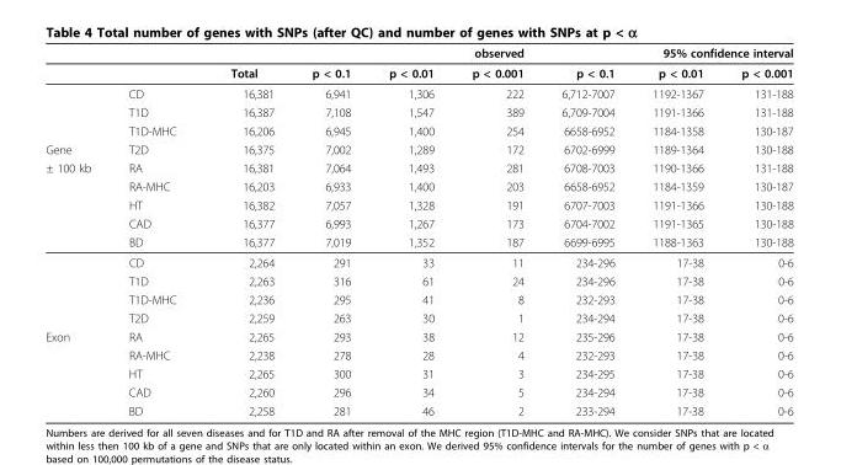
<table><thead><tr><td rowspan="2"></td><td rowspan="2"></td><td rowspan="2">Total</td><td colspan="3">observed</td><td colspan="3">95% confidence interval</td></tr><tr><td>p &lt; 0.1</td><td>p &lt; 0.01</td><td>p &lt; 0.001</td><td>p &lt; 0.1</td><td>p &lt; 0.01</td><td>p &lt; 0.001</td></tr></thead><tbody><tr><td></td><td>CD</td><td>16,381</td><td>6,941</td><td>1,306</td><td>222</td><td>6,712-7007</td><td>1192-1367</td><td>131-188</td></tr><tr><td></td><td>T1D</td><td>16,387</td><td>7,108</td><td>1,547</td><td>389</td><td>6,709-7004</td><td>1191-1366</td><td>131-188</td></tr><tr><td></td><td>T1D-MHC</td><td>16,206</td><td>6,945</td><td>1,400</td><td>254</td><td>6658-6952</td><td>1184-1358</td><td>130-187</td></tr><tr><td>Gene</td><td>T2D</td><td>16,375</td><td>7,002</td><td>1,289</td><td>172</td><td>6702-6999</td><td>1189-1364</td><td>130-188</td></tr><tr><td rowspan="9">± 100 kb</td><td>RA</td><td>16,381</td><td>7,064</td><td>1,493</td><td>281</td><td>6708-7003</td><td>1190-1366</td><td>131-188</td></tr><tr><td>RA-MHC</td><td>16,203</td><td>6,933</td><td>1,400</td><td>203</td><td>6658-6952</td><td>1184-1359</td><td>130-187</td></tr><tr><td>HT</td><td>16,382</td><td>7,057</td><td>1,328</td><td>191</td><td>6707-7003</td><td>1191-1366</td><td>130-188</td></tr><tr><td>CAD</td><td>16,377</td><td>6,993</td><td>1,267</td><td>173</td><td>6704-7002</td><td>1191-1365</td><td>130-188</td></tr><tr><td>BD</td><td>16,377</td><td>7,019</td><td>1,352</td><td>187</td><td>6699-6995</td><td>1188-1363</td><td>130-188</td></tr><tr><td>CD</td><td>2,264</td><td>291</td><td>33</td><td>11</td><td>234-296</td><td>17-38</td><td>0-6</td></tr><tr><td>T1D</td><td>2,263</td><td>316</td><td>61</td><td>24</td><td>234-296</td><td>17-38</td><td>0-6</td></tr><tr><td>T1D-MHC</td><td>2,236</td><td>295</td><td>41</td><td>8</td><td>232-293</td><td>17-38</td><td>0-6</td></tr><tr><td>T2D</td><td>2,259</td><td>263</td><td>30</td><td>1</td><td>234-294</td><td>17-38</td><td>0-6</td></tr><tr><td rowspan="5">Exon</td><td>RA</td><td>2,265</td><td>293</td><td>38</td><td>12</td><td>235-296</td><td>17-38</td><td>0-6</td></tr><tr><td>RA-MHC</td><td>2,238</td><td>278</td><td>28</td><td>4</td><td>232-293</td><td>17-38</td><td>0-6</td></tr><tr><td>HT</td><td>2,265</td><td>300</td><td>31</td><td>3</td><td>234-295</td><td>17-38</td><td>0-6</td></tr><tr><td>CAD</td><td>2,260</td><td>296</td><td>34</td><td>5</td><td>234-294</td><td>17-38</td><td>0-6</td></tr><tr><td>BD</td><td>2,258</td><td>281</td><td>46</td><td>2</td><td>233-294</td><td>17-38</td><td>0-6</td></tr></tbody></table>